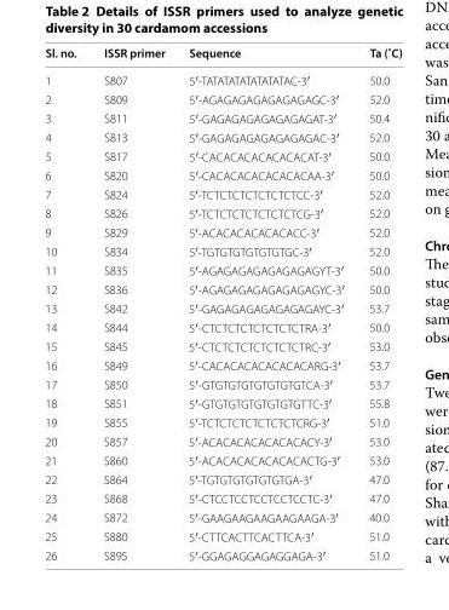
<table><thead><tr><td>Sl. no.</td><td>ISSR primer</td><td>Sequence</td><td>Ta (˚C)</td></tr></thead><tbody><tr><td>1</td><td>S807</td><td>5′-TATATATATATATATAC-3′</td><td>50.0</td></tr><tr><td>2</td><td>S809</td><td>5′-AGAGAGAGAGAGAGAGC-3′</td><td>52.0</td></tr><tr><td>3</td><td>S811</td><td>5′-GAGAGAGAGAGAGAGAT-3′</td><td>50.4</td></tr><tr><td>4</td><td>S813</td><td>5′-GAGAGAGAGAGAGAGAC-3′</td><td>52.0</td></tr><tr><td>5</td><td>S817</td><td>5′-CACACACACACACACAT-3′</td><td>50.0</td></tr><tr><td>6</td><td>S820</td><td>5′-CACACACACACACACAA-3′</td><td>50.0</td></tr><tr><td>7</td><td>S824</td><td>5′-TCTCTCTCTCTCTCTCC-3′</td><td>52.0</td></tr><tr><td>8</td><td>S826</td><td>5′-TCTCTCTCTCTCTCTCG-3′</td><td>52.0</td></tr><tr><td>9</td><td>S829</td><td>5′-ACACACACACACACC-3′</td><td>52.0</td></tr><tr><td>10</td><td>S834</td><td>5′-TGTGTGTGTGTGTGC-3′</td><td>52.0</td></tr><tr><td>11</td><td>S835</td><td>5′-AGAGAGAGAGAGAGAGYT-3′</td><td>50.0</td></tr><tr><td>12</td><td>S836</td><td>5′-AGAGAGAGAGAGAGAGYC-3′</td><td>50.0</td></tr><tr><td>13</td><td>S842</td><td>5′-GAGAGAGAGAGAGAGAYC-3′</td><td>53.7</td></tr><tr><td>14</td><td>S844</td><td>5′-CTCTCTCTCTCTCTCTRA-3′</td><td>50.0</td></tr><tr><td>15</td><td>S845</td><td>5′-CTCTCTCTCTCTCTCTRC-3′</td><td>53.0</td></tr><tr><td>16</td><td>S849</td><td>5′-CACACACACACACACARG-3′</td><td>53.7</td></tr><tr><td>17</td><td>S850</td><td>5′-GTGTGTGTGTGTGTGTCA-3′</td><td>53.7</td></tr><tr><td>18</td><td>S851</td><td>5′-GTGTGTGTGTGTGTGTTC-3′</td><td>55.8</td></tr><tr><td>19</td><td>S855</td><td>5′-TCTCTCTCTCTCTCTCRG-3′</td><td>51.0</td></tr><tr><td>20</td><td>S857</td><td>5′-ACACACACACACACACY-3′</td><td>53.0</td></tr><tr><td>21</td><td>S860</td><td>5′-ACACACACACACACACTG-3′</td><td>53.0</td></tr><tr><td>22</td><td>S864</td><td>5′-TGTGTGTGTGTGTGA-3′</td><td>47.0</td></tr><tr><td>23</td><td>S868</td><td>5′-CTCCTCCTCCTCCTCCTC-3′</td><td>47.0</td></tr><tr><td>24</td><td>S872</td><td>5′-GAAGAAGAAGAAGAAGA-3′</td><td>40.0</td></tr><tr><td>25</td><td>S880</td><td>5′-CTTCACTTCACTTCA-3′</td><td>51.0</td></tr><tr><td>26</td><td>S895</td><td>5′-GGAGAGGAGAGGAGA-3′</td><td>51.0</td></tr></tbody></table>